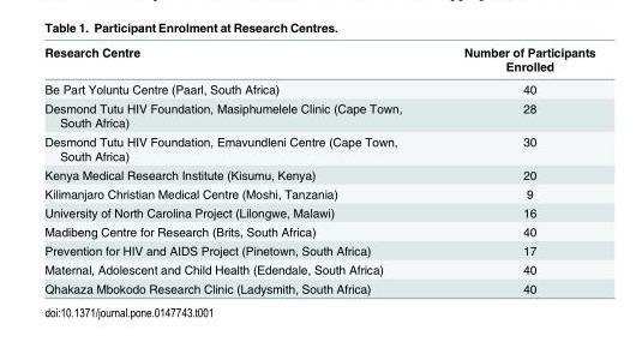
<table><thead><tr><td>Research Centre</td><td>Number of Participants Enrolled</td></tr></thead><tbody><tr><td>Be Part Yoluntu Centre (Paarl, South Africa)</td><td>40</td></tr><tr><td>Desmond Tutu HIV Foundation, Masiphumelele Clinic (Cape Town, South Africa)</td><td>28</td></tr><tr><td>Desmond Tutu HIV Foundation, Emavundleni Centre (Cape Town, South Africa)</td><td>30</td></tr><tr><td>Kenya Medical Research Institute (Kisumu, Kenya)</td><td>20</td></tr><tr><td>Kilimanjaro Christian Medical Centre (Moshi, Tanzania)</td><td>9</td></tr><tr><td>University of North Carolina Project (Lilongwe, Malawi)</td><td>16</td></tr><tr><td>Madibeng Centre for Research (Brits, South Africa)</td><td>40</td></tr><tr><td>Prevention for HIV and AIDS Project (Pinetown, South Africa)</td><td>17</td></tr><tr><td>Maternal, Adolescent and Child Health (Edendale, South Africa)</td><td>40</td></tr><tr><td>Qhakaza Mbokodo Research Clinic (Ladysmith, South Africa)</td><td>40</td></tr></tbody></table>